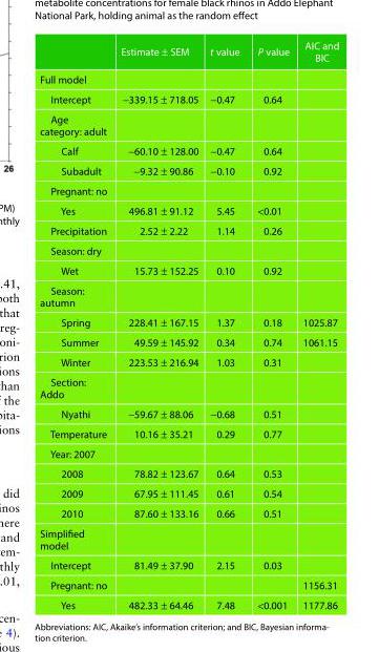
<table><thead><tr><td></td><td>Estimate ± SEM</td><td>t value</td><td>P value</td><td>AIC and BIC</td></tr></thead><tbody><tr><td colspan="5">Full model</td></tr><tr><td>Intercept</td><td>−339.15 ± 718.05</td><td>−0.47</td><td>0.64</td><td></td></tr><tr><td colspan="5">Age category: adult</td></tr><tr><td>Calf</td><td>−60.10 ± 128.00</td><td>−0.47</td><td>0.64</td><td></td></tr><tr><td>Subadult</td><td>−9.32 ± 90.86</td><td>−0.10</td><td>0.92</td><td></td></tr><tr><td colspan="5">Pregnant: no</td></tr><tr><td>Yes</td><td>496.81 ± 91.12</td><td>5.45</td><td>&lt;0.01</td><td></td></tr><tr><td>Precipitation</td><td>2.52 ± 2.22</td><td>1.14</td><td>0.26</td><td></td></tr><tr><td colspan="5">Season: dry</td></tr><tr><td>Wet</td><td>15.73 ± 152.25</td><td>0.10</td><td>0.92</td><td></td></tr><tr><td colspan="5">Season: autumn</td></tr><tr><td>Spring</td><td>228.41 ± 167.15</td><td>1.37</td><td>0.18</td><td>1025.87</td></tr><tr><td>Summer</td><td>49.59 ± 145.92</td><td>0.34</td><td>0.74</td><td>1061.15</td></tr><tr><td>Winter</td><td>223.53 ± 216.94</td><td>1.03</td><td>0.31</td><td></td></tr><tr><td colspan="5">Section: Addo</td></tr><tr><td>Nyathi</td><td>−59.67 ± 88.06</td><td>−0.68</td><td>0.51</td><td></td></tr><tr><td>Temperature</td><td>10.16 ± 35.21</td><td>0.29</td><td>0.77</td><td></td></tr><tr><td colspan="5">Year: 2007</td></tr><tr><td>2008</td><td>78.82 ± 123.67</td><td>0.64</td><td>0.53</td><td></td></tr><tr><td>2009</td><td>67.95 ± 111.45</td><td>0.61</td><td>0.54</td><td></td></tr><tr><td>2010</td><td>87.60 ± 133.16</td><td>0.66</td><td>0.51</td><td></td></tr><tr><td colspan="5">Simplified model</td></tr><tr><td>Intercept</td><td>81.49 ± 37.90</td><td>2.15</td><td>0.03</td><td></td></tr><tr><td>Pregnant: no</td><td></td><td></td><td></td><td>1156.31</td></tr><tr><td>Yes</td><td>482.33 ± 64.46</td><td>7.48</td><td>&lt;0.001</td><td>1177.86</td></tr></tbody></table>